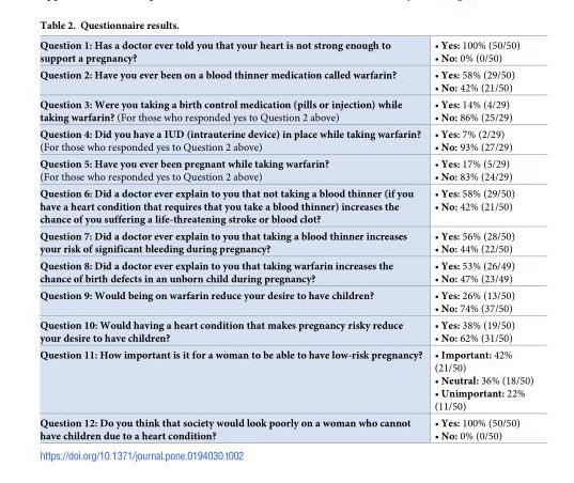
<table><tbody><tr><td>Question 1: Has a doctor ever told you that your heart is not strong enough to support a pregnancy?</td><td>• Yes: 100% (50/50) • No: 0% (0/50)</td></tr><tr><td>Question 2: Have you ever been on a blood thinner medication called warfarin?</td><td>• Yes: 58% (29/50) • No: 42% (21/50)</td></tr><tr><td>Question 3: Were you taking a birth control medication (pills or injection) while taking warfarin? (For those who responded yes to Question 2 above)</td><td>• Yes: 14% (4/29) • No: 86% (25/29)</td></tr><tr><td>Question 4: Did you have a IUD (intrauterine device) in place while taking warfarin? (For those who responded yes to Question 2 above)</td><td>• Yes: 7% (2/29) • No: 93% (27/29)</td></tr><tr><td>Question 5: Have you ever been pregnant while taking warfarin? (For those who responded yes to Question 2 above)</td><td>• Yes: 17% (5/29) • No: 83% (24/29)</td></tr><tr><td>Question 6: Did a doctor ever explain to you that not taking a blood thinner (if you have a heart condition that requires that you take a blood thinner) increases the chance of you suffering a life-threatening stroke or blood clot?</td><td>• Yes: 58% (29/50) • No: 42% (21/50)</td></tr><tr><td>Question 7: Did a doctor ever explain to you that taking a blood thinner increases your risk of significant bleeding during pregnancy?</td><td>• Yes: 56% (28/50) • No: 44% (22/50)</td></tr><tr><td>Question 8: Did a doctor ever explain to you that taking warfarin increases the chance of birth defects in an unborn child during pregnancy?</td><td>• Yes: 53% (26/49) • No: 47% (23/49)</td></tr><tr><td>Question 9: Would being on warfarin reduce your desire to have children?</td><td>• Yes: 26% (13/50) • No: 74% (37/50)</td></tr><tr><td>Question 10: Would having a heart condition that makes pregnancy risky reduce your desire to have children?</td><td>• Yes: 38% (19/50) • No: 62% (31/50)</td></tr><tr><td>Question 11: How important is it for a woman to be able to have low-risk pregnancy?</td><td>• Important: 42% (21/50) • Neutral: 36% (18/50) • Unimportant: 22% (11/50)</td></tr><tr><td>Question 12: Do you think that society would look poorly on a woman who cannot have children due to a heart condition?</td><td>• Yes: 100% (50/50) • No: 0% (0/50)</td></tr></tbody></table>